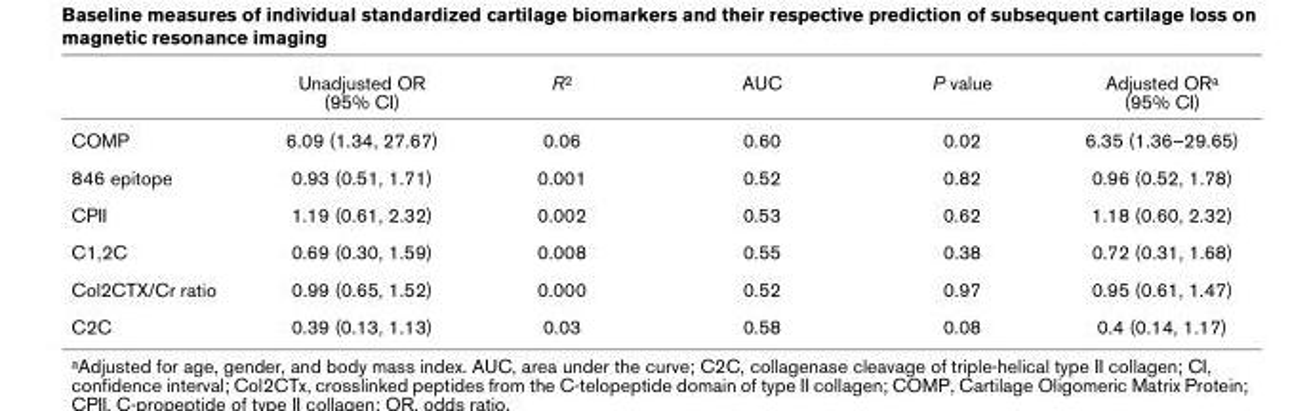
<table><thead><tr><td></td><td>Unadjusted OR (95% CI)</td><td>R<sup>2</sup></td><td>AUC</td><td>P value</td><td>Adjusted OR<sup>a</sup> (95% CI)</td></tr></thead><tbody><tr><td>COMP</td><td>6.09 (1.34, 27.67)</td><td>0.06</td><td>0.60</td><td>0.02</td><td>6.35 (1.36–29.65)</td></tr><tr><td>846 epitope</td><td>0.93 (0.51, 1.71)</td><td>0.001</td><td>0.52</td><td>0.82</td><td>0.96 (0.52, 1.78)</td></tr><tr><td>CPII</td><td>1.19 (0.61, 2.32)</td><td>0.002</td><td>0.53</td><td>0.62</td><td>1.18 (0.60, 2.32)</td></tr><tr><td>C1,2C</td><td>0.69 (0.30, 1.59)</td><td>0.008</td><td>0.55</td><td>0.38</td><td>0.72 (0.31, 1.68)</td></tr><tr><td>Col2CTX/Cr ratio</td><td>0.99 (0.65, 1.52)</td><td>0.000</td><td>0.52</td><td>0.97</td><td>0.95 (0.61, 1.47)</td></tr><tr><td>C2C</td><td>0.39 (0.13, 1.13)</td><td>0.03</td><td>0.58</td><td>0.08</td><td>0.4 (0.14, 1.17)</td></tr></tbody></table>